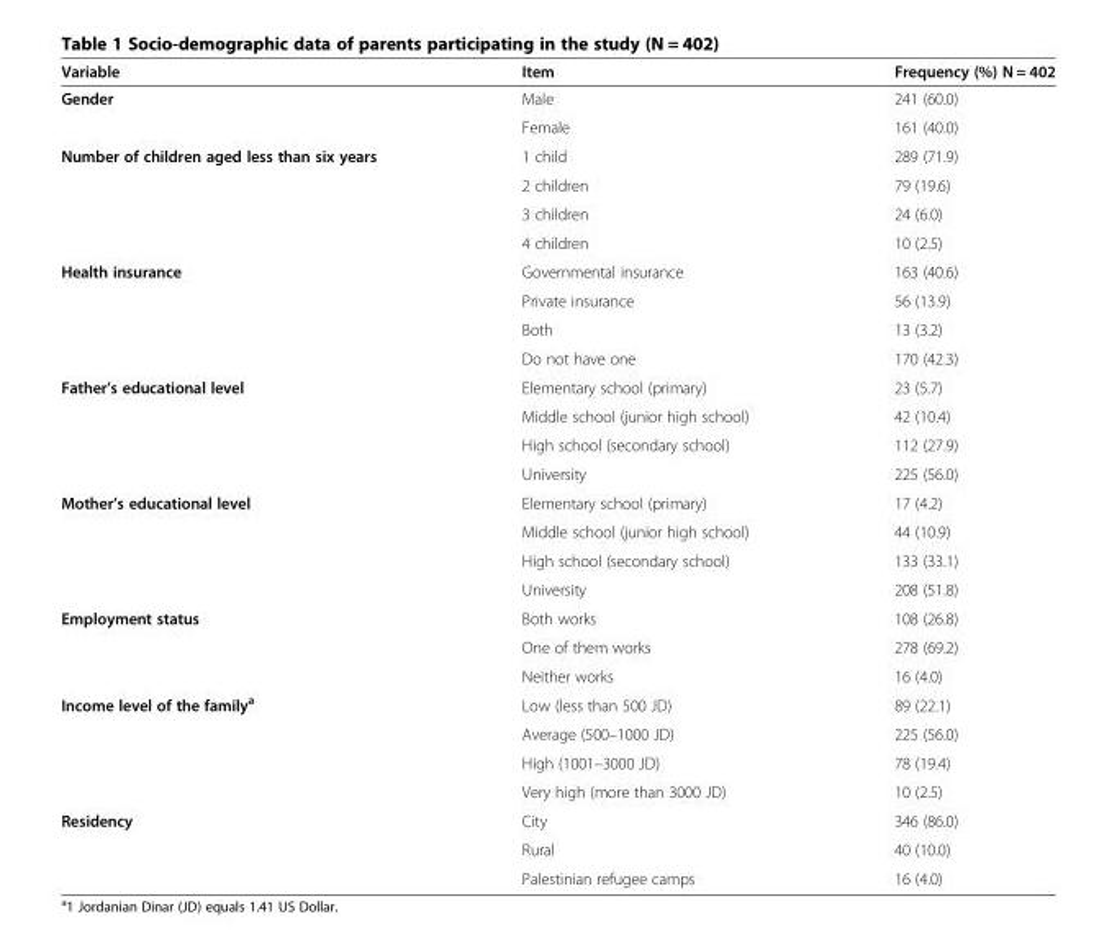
<table><thead><tr><td>Variable</td><td>Item</td><td>Frequency (%) N = 402</td></tr></thead><tbody><tr><td rowspan="2">Gender</td><td>Male</td><td>241 (60.0)</td></tr><tr><td>Female</td><td>161 (40.0)</td></tr><tr><td rowspan="4">Number of children aged less than six years</td><td>1 child</td><td>289 (71.9)</td></tr><tr><td>2 children</td><td>79 (19.6)</td></tr><tr><td>3 children</td><td>24 (6.0)</td></tr><tr><td>4 children</td><td>10 (2.5)</td></tr><tr><td rowspan="4">Health insurance</td><td>Governmental insurance</td><td>163 (40.6)</td></tr><tr><td>Private insurance</td><td>56 (13.9)</td></tr><tr><td>Both</td><td>13 (3.2)</td></tr><tr><td>Do not have one</td><td>170 (42.3)</td></tr><tr><td rowspan="4">Father’s educational level</td><td>Elementary school (primary)</td><td>23 (5.7)</td></tr><tr><td>Middle school (junior high school)</td><td>42 (10.4)</td></tr><tr><td>High school (secondary school)</td><td>112 (27.9)</td></tr><tr><td>University</td><td>225 (56.0)</td></tr><tr><td rowspan="4">Mother’s educational level</td><td>Elementary school (primary)</td><td>17 (4.2)</td></tr><tr><td>Middle school (junior high school)</td><td>44 (10.9)</td></tr><tr><td>High school (secondary school)</td><td>133 (33.1)</td></tr><tr><td>University</td><td>208 (51.8)</td></tr><tr><td rowspan="3">Employment status</td><td>Both works</td><td>108 (26.8)</td></tr><tr><td>One of them works</td><td>278 (69.2)</td></tr><tr><td>Neither works</td><td>16 (4.0)</td></tr><tr><td rowspan="4">Income level of the family<sup>a</sup></td><td>Low (less than 500 JD)</td><td>89 (22.1)</td></tr><tr><td>Average (500–1000 JD)</td><td>225 (56.0)</td></tr><tr><td>High (1001–3000 JD)</td><td>78 (19.4)</td></tr><tr><td>Very high (more than 3000 JD)</td><td>10 (2.5)</td></tr><tr><td rowspan="3">Residency</td><td>City</td><td>346 (86.0)</td></tr><tr><td>Rural</td><td>40 (10.0)</td></tr><tr><td>Palestinian refugee camps</td><td>16 (4.0)</td></tr></tbody></table>